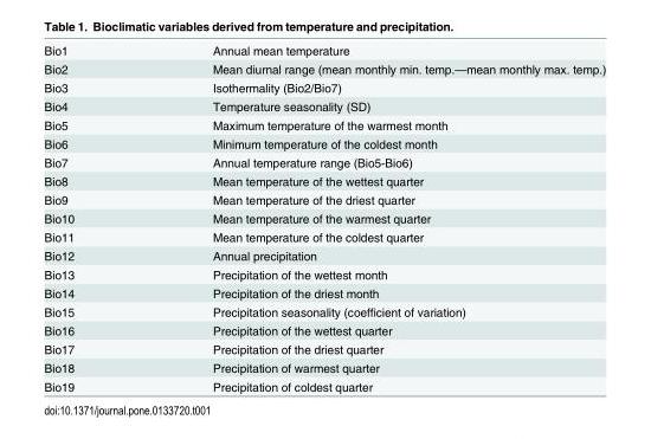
<table><tbody><tr><td>Bio1</td><td>Annual mean temperature</td></tr><tr><td>Bio2</td><td>Mean diurnal range (mean monthly min. temp.—mean monthly max. temp.)</td></tr><tr><td>Bio3</td><td>Isothermality (Bio2/Bio7)</td></tr><tr><td>Bio4</td><td>Temperature seasonality (SD)</td></tr><tr><td>Bio5</td><td>Maximum temperature of the warmest month</td></tr><tr><td>Bio6</td><td>Minimum temperature of the coldest month</td></tr><tr><td>Bio7</td><td>Annual temperature range (Bio5-Bio6)</td></tr><tr><td>Bio8</td><td>Mean temperature of the wettest quarter</td></tr><tr><td>Bio9</td><td>Mean temperature of the driest quarter</td></tr><tr><td>Bio10</td><td>Mean temperature of the warmest quarter</td></tr><tr><td>Bio11</td><td>Mean temperature of the coldest quarter</td></tr><tr><td>Bio12</td><td>Annual precipitation</td></tr><tr><td>Bio13</td><td>Precipitation of the wettest month</td></tr><tr><td>Bio14</td><td>Precipitation of the driest month</td></tr><tr><td>Bio15</td><td>Precipitation seasonality (coefficient of variation)</td></tr><tr><td>Bio16</td><td>Precipitation of the wettest quarter</td></tr><tr><td>Bio17</td><td>Precipitation of the driest quarter</td></tr><tr><td>Bio18</td><td>Precipitation of warmest quarter</td></tr><tr><td>Bio19</td><td>Precipitation of coldest quarter</td></tr></tbody></table>